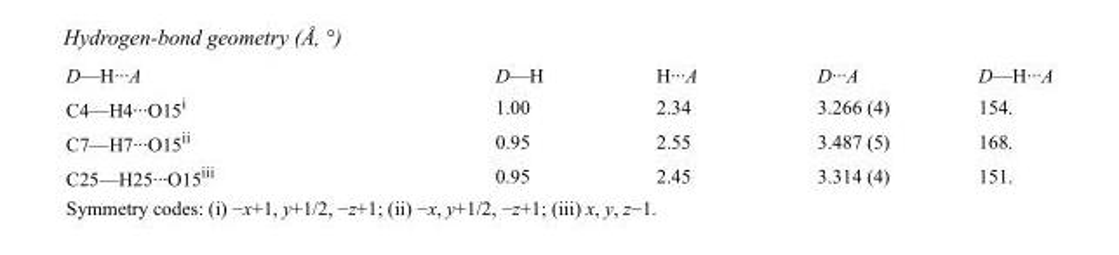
<table><tbody><tr><td>D—H···A</td><td>D—H</td><td>H···A</td><td>D···A</td><td>D—H···A</td></tr><tr><td>C4—H4···O15<sup>i</sup></td><td>1.00</td><td>2.34</td><td>3.266 (4)</td><td>154.</td></tr><tr><td>C7—H7···O15<sup>ii</sup></td><td>0.95</td><td>2.55</td><td>3.487 (5)</td><td>168.</td></tr><tr><td>C25—H25···O15<sup>iii</sup></td><td>0.95</td><td>2.45</td><td>3.314 (4)</td><td>151.</td></tr></tbody></table>